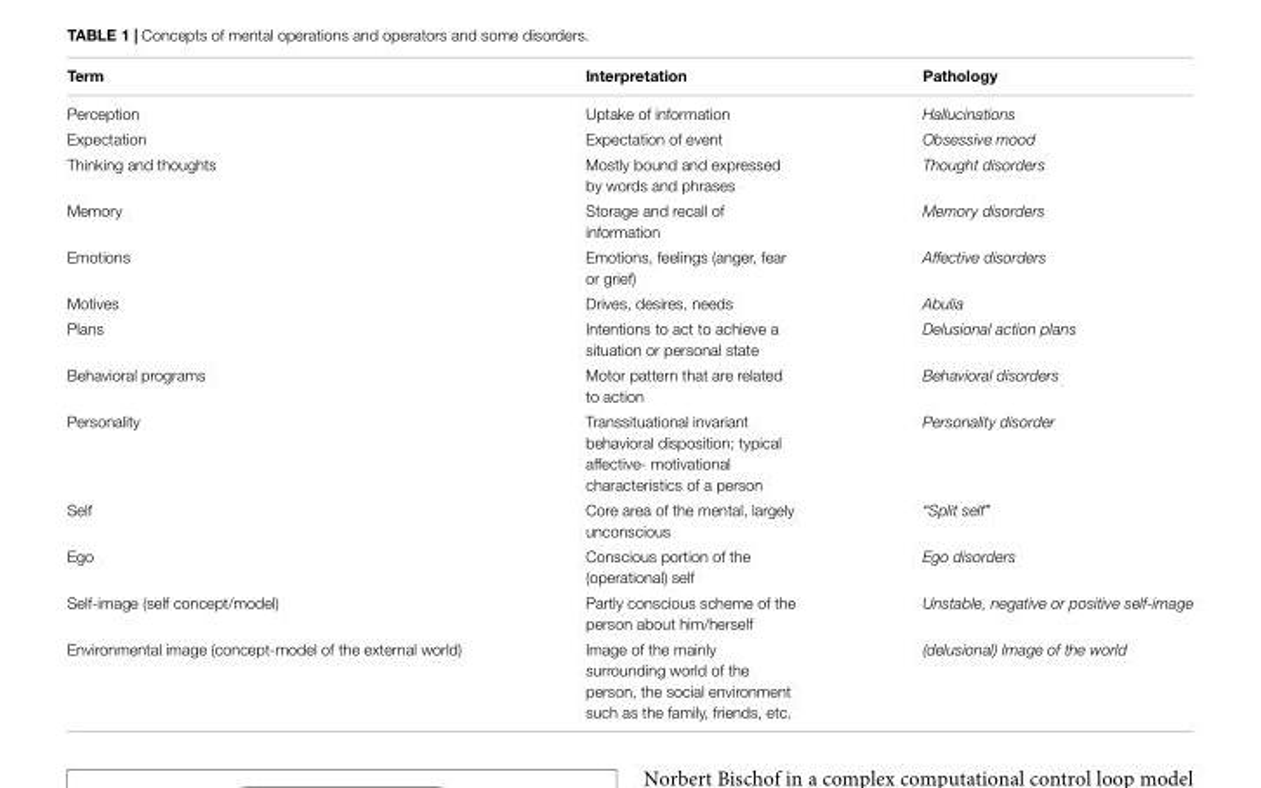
<table><thead><tr><td>Term</td><td>Interpretation</td><td>Pathology</td></tr></thead><tbody><tr><td>Perception</td><td>Uptake of information</td><td>Hallucinations</td></tr><tr><td>Expectation</td><td>Expectation of event</td><td>Obsessive mood</td></tr><tr><td>Thinking and thoughts</td><td>Mostly bound and expressed by words and phrases</td><td>Thought disorders</td></tr><tr><td>Memory</td><td>Storage and recall of information</td><td>Memory disorders</td></tr><tr><td>Emotions</td><td>Emotions, feelings (anger, fear or grief)</td><td>Affective disorders</td></tr><tr><td>Motives</td><td>Drives, desires, needs</td><td>Abulia</td></tr><tr><td>Plans</td><td>Intentions to act to achieve a situation or personal state</td><td>Delusional action plans</td></tr><tr><td>Behavioral programs</td><td>Motor pattern that are related to action</td><td>Behavioral disorders</td></tr><tr><td>Personality</td><td>Transsituational invariant behavioral disposition; typical affective- motivational characteristics of a person</td><td>Personality disorder</td></tr><tr><td>Self</td><td>Core area of the mental, largely unconscious</td><td>“Split self”</td></tr><tr><td>Ego</td><td>Conscious portion of the (operational) self</td><td>Ego disorders</td></tr><tr><td>Self-image (self concept/model)</td><td>Partly conscious scheme of the person about him/herself</td><td>Unstable, negative or positive self-image</td></tr><tr><td>Environmental image (concept-model of the external world)</td><td>Image of the mainly surrounding world of the person, the social environment such as the family, friends, etc.</td><td>(delusional) Image of the world</td></tr></tbody></table>